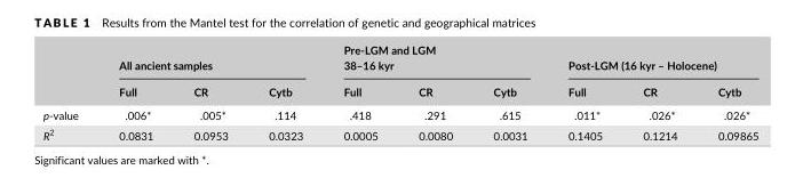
<table><thead><tr><td rowspan="2"></td><td colspan="3">All ancient samples</td><td colspan="3">Pre- LGM and LGM 38–16 kyr</td><td colspan="3">Post- LGM (16 kyr – Holocene)</td></tr><tr><td>Full</td><td>CR</td><td>Cytb</td><td>Full</td><td>CR</td><td>Cytb</td><td>Full</td><td>CR</td><td>Cytb</td></tr></thead><tbody><tr><td>p- value</td><td>.006*</td><td>.005*</td><td>.114</td><td>.418</td><td>.291</td><td>.615</td><td>.011*</td><td>.026*</td><td>.026*</td></tr><tr><td>R<sup>2</sup></td><td>0.0831</td><td>0.0953</td><td>0.0323</td><td>0.0005</td><td>0.0080</td><td>0.0031</td><td>0.1405</td><td>0.1214</td><td>0.09865</td></tr></tbody></table>